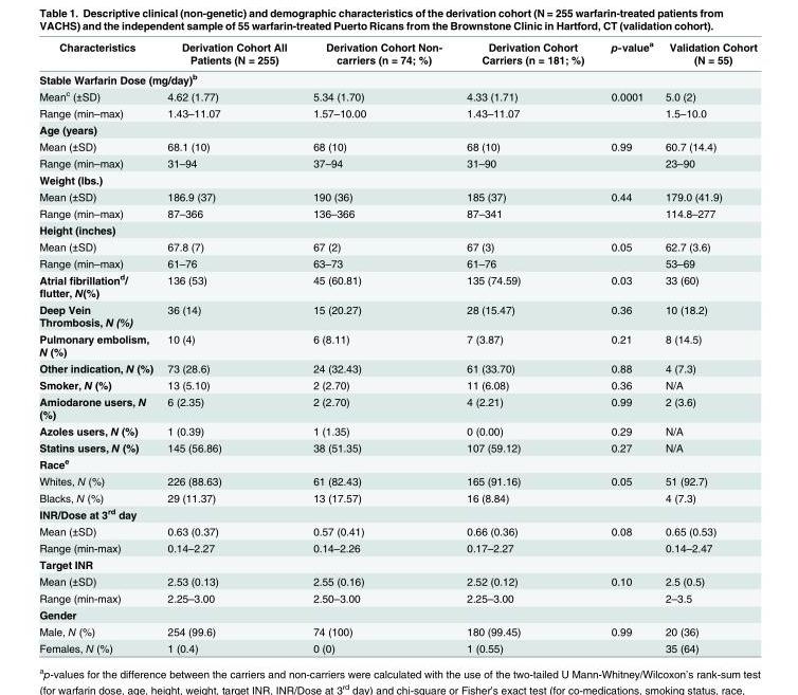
<table><thead><tr><td>Characteristics</td><td>Derivation Cohort All Patients (N = 255)</td><td>Derivation Cohort Non- carriers (n = 74; %)</td><td>Derivation Cohort Carriers (n = 181; %)</td><td>p-value<sup>a</sup></td><td>Validation Cohort (N = 55)</td></tr></thead><tbody><tr><td colspan="6">Stable Warfarin Dose (mg/day)<sup>b</sup></td></tr><tr><td>Mean<sup>c</sup> (±SD)</td><td>4.62 (1.77)</td><td>5.34 (1.70)</td><td>4.33 (1.71)</td><td>0.0001</td><td>5.0 (2)</td></tr><tr><td>Range (min–max)</td><td>1.43–11.07</td><td>1.57–10.00</td><td>1.43–11.07</td><td></td><td>1.5–10.0</td></tr><tr><td colspan="6">Age (years)</td></tr><tr><td>Mean (±SD)</td><td>68.1 (10)</td><td>68 (10)</td><td>68 (10)</td><td>0.99</td><td>60.7 (14.4)</td></tr><tr><td>Range (min–max)</td><td>31–94</td><td>37–94</td><td>31–90</td><td></td><td>23–90</td></tr><tr><td colspan="6">Weight (lbs.)</td></tr><tr><td>Mean (±SD)</td><td>186.9 (37)</td><td>190 (36)</td><td>185 (37)</td><td>0.44</td><td>179.0 (41.9)</td></tr><tr><td>Range (min–max)</td><td>87–366</td><td>136–366</td><td>87–341</td><td></td><td>114.8–277</td></tr><tr><td colspan="6">Height (inches)</td></tr><tr><td>Mean (±SD)</td><td>67.8 (7)</td><td>67 (2)</td><td>67 (3)</td><td>0.05</td><td>62.7 (3.6)</td></tr><tr><td>Range (min–max)</td><td>61–76</td><td>63–73</td><td>61–76</td><td></td><td>53–69</td></tr><tr><td>Atrial fibrillation<sup>d</sup>/ flutter, N(%)</td><td>136 (53)</td><td>45 (60.81)</td><td>135 (74.59)</td><td>0.03</td><td>33 (60)</td></tr><tr><td>Deep Vein Thrombosis, N (%)</td><td>36 (14)</td><td>15 (20.27)</td><td>28 (15.47)</td><td>0.36</td><td>10 (18.2)</td></tr><tr><td>Pulmonary embolism, N (%)</td><td>10 (4)</td><td>6 (8.11)</td><td>7 (3.87)</td><td>0.21</td><td>8 (14.5)</td></tr><tr><td>Other indication, N (%)</td><td>73 (28.6)</td><td>24 (32.43)</td><td>61 (33.70)</td><td>0.88</td><td>4 (7.3)</td></tr><tr><td>Smoker, N (%)</td><td>13 (5.10)</td><td>2 (2.70)</td><td>11 (6.08)</td><td>0.36</td><td>N/A</td></tr><tr><td>Amiodarone users, N (%)</td><td>6 (2.35)</td><td>2 (2.70)</td><td>4 (2.21)</td><td>0.99</td><td>2 (3.6)</td></tr><tr><td>Azoles users, N (%)</td><td>1 (0.39)</td><td>1 (1.35)</td><td>0 (0.00)</td><td>0.29</td><td>N/A</td></tr><tr><td>Statins users, N (%)</td><td>145 (56.86)</td><td>38 (51.35)</td><td>107 (59.12)</td><td>0.27</td><td>N/A</td></tr><tr><td colspan="6">Race<sup>e</sup></td></tr><tr><td>Whites, N (%)</td><td>226 (88.63)</td><td>61 (82.43)</td><td>165 (91.16)</td><td>0.05</td><td>51 (92.7)</td></tr><tr><td>Blacks, N (%)</td><td>29 (11.37)</td><td>13 (17.57)</td><td>16 (8.84)</td><td></td><td>4 (7.3)</td></tr><tr><td colspan="6">INR/Dose at 3<sup>rd</sup> day</td></tr><tr><td>Mean (±SD)</td><td>0.63 (0.37)</td><td>0.57 (0.41)</td><td>0.66 (0.36)</td><td>0.08</td><td>0.65 (0.53)</td></tr><tr><td>Range (min-max)</td><td>0.14–2.27</td><td>0.14–2.26</td><td>0.17–2.27</td><td></td><td>0.14–2.47</td></tr><tr><td colspan="6">Target INR</td></tr><tr><td>Mean (±SD)</td><td>2.53 (0.13)</td><td>2.55 (0.16)</td><td>2.52 (0.12)</td><td>0.10</td><td>2.5 (0.5)</td></tr><tr><td>Range (min-max)</td><td>2.25–3.00</td><td>2.50–3.00</td><td>2.25–3.00</td><td></td><td>2–3.5</td></tr><tr><td colspan="6">Gender</td></tr><tr><td>Male, N (%)</td><td>254 (99.6)</td><td>74 (100)</td><td>180 (99.45)</td><td>0.99</td><td>20 (36)</td></tr><tr><td>Females, N (%)</td><td>1 (0.4)</td><td>0 (0)</td><td>1 (0.55)</td><td></td><td>35 (64)</td></tr></tbody></table>